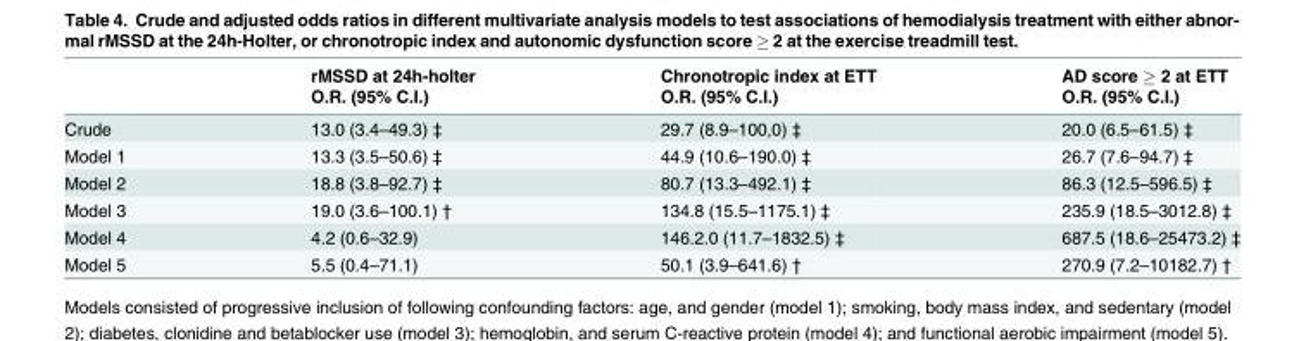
<table><thead><tr><td rowspan="2"></td><td rowspan="2">rMSSD at 24h-holter O.R. (95% C.I.)</td><td rowspan="2">Chronotropic index at ETT O.R. (95% C.I.)</td><td rowspan="2">AD score ≥ 2 at ETT O.R. (95% C.I.)</td></tr><tr></tr></thead><tbody><tr><td>Crude</td><td>13.0 (3.4–49.3) ‡</td><td>29.7 (8.9–100,0) ‡</td><td>20.0 (6.5–61.5) ‡</td></tr><tr><td>Model 1</td><td>13.3 (3.5–50.6) ‡</td><td>44.9 (10.6–190.0) ‡</td><td>26.7 (7.6–94.7) ‡</td></tr><tr><td>Model 2</td><td>18.8 (3.8–92.7) ‡</td><td>80.7 (13.3–492.1) ‡</td><td>86.3 (12.5–596.5) ‡</td></tr><tr><td>Model 3</td><td>19.0 (3.6–100.1) †</td><td>134.8 (15.5–1175.1) ‡</td><td>235.9 (18.5–3012.8) ‡</td></tr><tr><td>Model 4</td><td>4.2 (0.6–32.9)</td><td>146.2.0 (11.7–1832.5) ‡</td><td>687.5 (18.6–25473.2) ‡</td></tr><tr><td>Model 5</td><td>5.5 (0.4–71.1)</td><td>50.1 (3.9–641.6) †</td><td>270.9 (7.2–10182.7) †</td></tr></tbody></table>